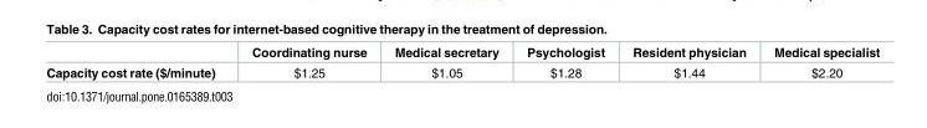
<table><thead><tr><td></td><td>Coordinating nurse</td><td>Medical secretary</td><td>Psychologist</td><td>Resident physician</td><td>Medical specialist</td></tr></thead><tbody><tr><td>Capacity cost rate ($/minute)</td><td>$1.25</td><td>$1.05</td><td>$1.28</td><td>$1.44</td><td>$2.20</td></tr></tbody></table>